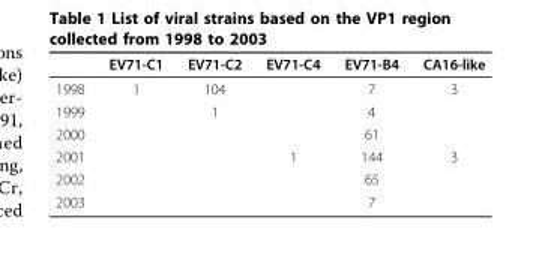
<table><thead><tr><td></td><td>EV71-C1</td><td>EV71-C2</td><td>EV71-C4</td><td>EV71-B4</td><td>CA16-like</td></tr></thead><tbody><tr><td>1998</td><td>1</td><td>104</td><td></td><td>7</td><td>3</td></tr><tr><td>1999</td><td></td><td>1</td><td></td><td>4</td><td></td></tr><tr><td>2000</td><td></td><td></td><td></td><td>61</td><td></td></tr><tr><td>2001</td><td></td><td></td><td>1</td><td>144</td><td>3</td></tr><tr><td>2002</td><td></td><td></td><td></td><td>65</td><td></td></tr><tr><td>2003</td><td></td><td></td><td></td><td>7</td><td></td></tr></tbody></table>